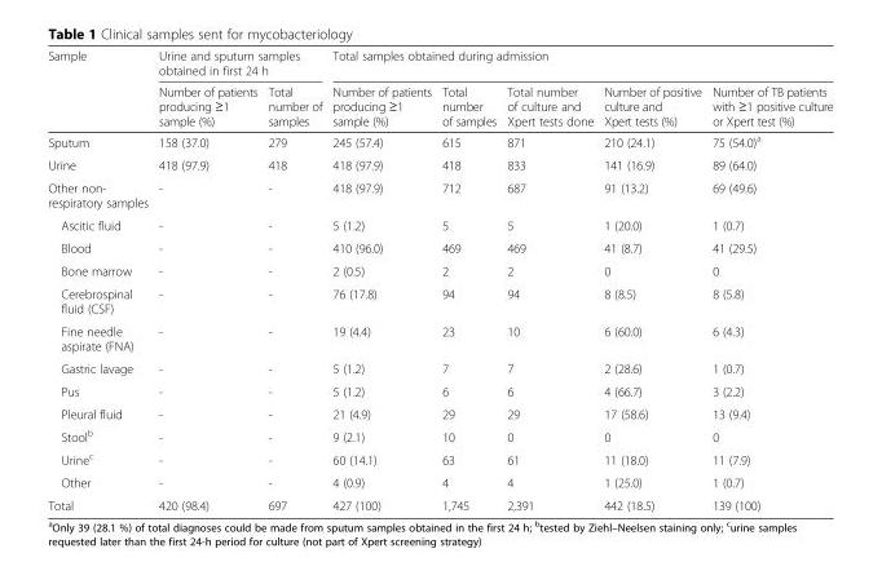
<table><thead><tr><td rowspan="2">Sample</td><td colspan="2">Urine and sputum samples obtained in first 24 h</td><td colspan="5">Total samples obtained during admission</td></tr><tr><td>Number of patients producing ≥1 sample (%)</td><td>Total number of samples</td><td>Number of patients producing ≥1 sample (%)</td><td>Total number of samples</td><td>Total number of culture and Xpert tests done</td><td>Number of positive culture and Xpert tests (%)</td><td>Number of TB patients with ≥1 positive culture or Xpert test (%)</td></tr></thead><tbody><tr><td>Sputum</td><td>158 (37.0)</td><td>279</td><td>245 (57.4)</td><td>615</td><td>871</td><td>210 (24.1)</td><td>75 (54.0)<sup>a</sup></td></tr><tr><td>Urine</td><td>418 (97.9)</td><td>418</td><td>418 (97.9)</td><td>418</td><td>833</td><td>141 (16.9)</td><td>89 (64.0)</td></tr><tr><td>Other non- respiratory samples</td><td>-</td><td>-</td><td>418 (97.9)</td><td>712</td><td>687</td><td>91 (13.2)</td><td>69 (49.6)</td></tr><tr><td>Ascitic fluid</td><td>-</td><td>-</td><td>5 (1.2)</td><td>5</td><td>5</td><td>1 (20.0)</td><td>1 (0.7)</td></tr><tr><td>Blood</td><td>-</td><td>-</td><td>410 (96.0)</td><td>469</td><td>469</td><td>41 (8.7)</td><td>41 (29.5)</td></tr><tr><td>Bone marrow</td><td>-</td><td>-</td><td>2 (0.5)</td><td>2</td><td>2</td><td>0</td><td>0</td></tr><tr><td>Cerebrospinal fluid (CSF)</td><td>-</td><td>-</td><td>76 (17.8)</td><td>94</td><td>94</td><td>8 (8.5)</td><td>8 (5.8)</td></tr><tr><td>Fine needle aspirate (FNA)</td><td>-</td><td>-</td><td>19 (4.4)</td><td>23</td><td>10</td><td>6 (60.0)</td><td>6 (4.3)</td></tr><tr><td>Gastric lavage</td><td>-</td><td>-</td><td>5 (1.2)</td><td>7</td><td>7</td><td>2 (28.6)</td><td>1 (0.7)</td></tr><tr><td>Pus</td><td>-</td><td>-</td><td>5 (1.2)</td><td>6</td><td>6</td><td>4 (66.7)</td><td>3 (2.2)</td></tr><tr><td>Pleural fluid</td><td>-</td><td>-</td><td>21 (4.9)</td><td>29</td><td>29</td><td>17 (58.6)</td><td>13 (9.4)</td></tr><tr><td>Stool<sup>b</sup></td><td>-</td><td>-</td><td>9 (2.1)</td><td>10</td><td>0</td><td>0</td><td>0</td></tr><tr><td>Urine<sup>c</sup></td><td>-</td><td>-</td><td>60 (14.1)</td><td>63</td><td>61</td><td>11 (18.0)</td><td>11 (7.9)</td></tr><tr><td>Other</td><td>-</td><td>-</td><td>4 (0.9)</td><td>4</td><td>4</td><td>1 (25.0)</td><td>1 (0.7)</td></tr><tr><td>Total</td><td>420 (98.4)</td><td>697</td><td>427 (100)</td><td>1,745</td><td>2,391</td><td>442 (18.5)</td><td>139 (100)</td></tr></tbody></table>